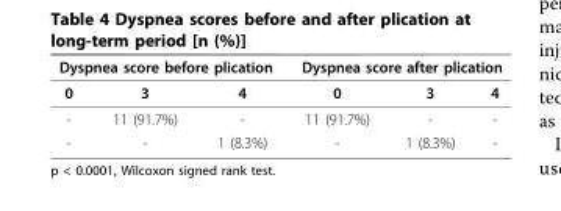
<table><thead><tr><td colspan="3">Dyspnea score before plication</td><td colspan="3">Dyspnea score after plication</td></tr><tr><td>0</td><td>3</td><td>4</td><td>0</td><td>3</td><td>4</td></tr></thead><tbody><tr><td>-</td><td>11 (91.7%)</td><td>-</td><td>11 (91.7%)</td><td>-</td><td>-</td></tr><tr><td>-</td><td>-</td><td>1 (8.3%)</td><td>-</td><td>1 (8.3%)</td><td>-</td></tr></tbody></table>